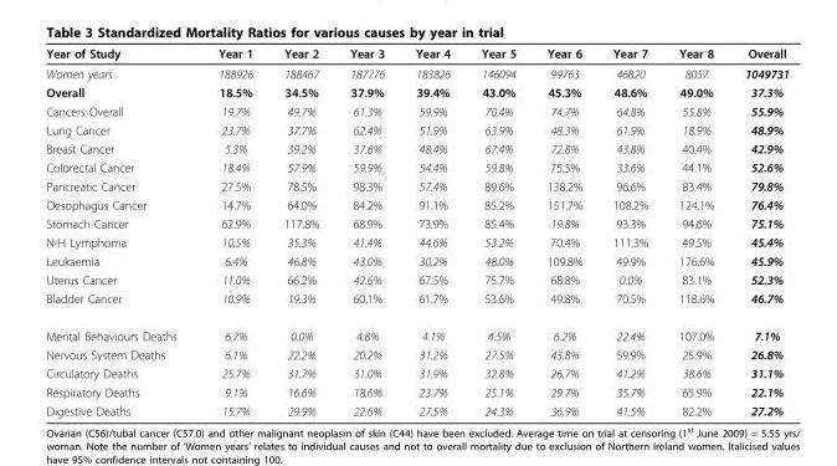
<table><thead><tr><td>Year of Study</td><td>Year 1</td><td>Year 2</td><td>Year 3</td><td>Year 4</td><td>Year 5</td><td>Year 6</td><td>Year 7</td><td>Year 8</td><td>Overall</td></tr></thead><tbody><tr><td>Women years</td><td>188926</td><td>188467</td><td>187776</td><td>183826</td><td>146094</td><td>99763</td><td>46820</td><td>8057</td><td>1049731</td></tr><tr><td>Overall</td><td>18.5%</td><td>34.5%</td><td>37.9%</td><td>39.4%</td><td>43.0%</td><td>45.3%</td><td>48.6%</td><td>49.0%</td><td>37.3%</td></tr><tr><td>Cancers Overall</td><td>19.7%</td><td>49.7%</td><td>61.3%</td><td>59.9%</td><td>70.4%</td><td>74.7%</td><td>64.8%</td><td>55.8%</td><td>55.9%</td></tr><tr><td>Lung Cancer</td><td>23.7%</td><td>37.7%</td><td>62.4%</td><td>51.9%</td><td>63.9%</td><td>48.3%</td><td>61.9%</td><td>18.9%</td><td>48.9%</td></tr><tr><td>Breast Cancer</td><td>5.3%</td><td>39.2%</td><td>37.6%</td><td>48.4%</td><td>67.4%</td><td>72.8%</td><td>43.8%</td><td>40.4%</td><td>42.9%</td></tr><tr><td>Colorectal Cancer</td><td>18.4%</td><td>57.9%</td><td>59.9%</td><td>54.4%</td><td>59.8%</td><td>75.5%</td><td>33.6%</td><td>44.1%</td><td>52.6%</td></tr><tr><td>Pancreatic Cancer</td><td>27.5%</td><td>78.5%</td><td>98.3%</td><td>57.4%</td><td>89.6%</td><td>138.2%</td><td>96.6%</td><td>83.4%</td><td>79.8%</td></tr><tr><td>Oesophagus Cancer</td><td>14.7%</td><td>64.0%</td><td>84.2%</td><td>91.1%</td><td>85.2%</td><td>151.7%</td><td>108.2%</td><td>124.1%</td><td>76.4%</td></tr><tr><td>Stomach Cancer</td><td>62.9%</td><td>117.8%</td><td>68.9%</td><td>73.9%</td><td>85.4%</td><td>19.8%</td><td>93.3%</td><td>94.6%</td><td>75.1%</td></tr><tr><td>N-H Lymphoma</td><td>10.5%</td><td>35.3%</td><td>41.4%</td><td>44.6%</td><td>53.2%</td><td>70.4%</td><td>111.3%</td><td>49.5%</td><td>45.4%</td></tr><tr><td>Leukaemia</td><td>6.4%</td><td>46.8%</td><td>43.0%</td><td>30.2%</td><td>48.0%</td><td>109.8%</td><td>49.9%</td><td>176.6%</td><td>45.9%</td></tr><tr><td>Uterus Cancer</td><td>11.0%</td><td>66.2%</td><td>42.6%</td><td>67.5%</td><td>75.7%</td><td>68.8%</td><td>0.0%</td><td>83.1%</td><td>52.3%</td></tr><tr><td>Bladder Cancer</td><td>10.9%</td><td>19.3%</td><td>60.1%</td><td>61.7%</td><td>53.6%</td><td>49.8%</td><td>70.5%</td><td>118.6%</td><td>46.7%</td></tr><tr><td>Mental Behaviours Deaths</td><td>6.7%</td><td>0.0%</td><td>4.8%</td><td>4.1%</td><td>4.5%</td><td>6.2%</td><td>22.4%</td><td>107.0%</td><td>7.1%</td></tr><tr><td>Nervous System Deaths</td><td>6.1%</td><td>22.2%</td><td>20.2%</td><td>31.2%</td><td>27.5%</td><td>43.8%</td><td>59.9%</td><td>25.9%</td><td>26.8%</td></tr><tr><td>Circulatory Deaths</td><td>25.7%</td><td>31.7%</td><td>31.0%</td><td>31.9%</td><td>32.8%</td><td>26.7%</td><td>41.2%</td><td>38.6%</td><td>31.1%</td></tr><tr><td>Respiratory Deaths</td><td>9.1%</td><td>16.6%</td><td>18.6%</td><td>23.7%</td><td>25.1%</td><td>29.7%</td><td>35.7%</td><td>65.9%</td><td>22.1%</td></tr><tr><td>Digestive Deaths</td><td>15.7%</td><td>29.9%</td><td>22.6%</td><td>27.5%</td><td>24.3%</td><td>36.9%</td><td>41.5%</td><td>82.2%</td><td>27.2%</td></tr></tbody></table>